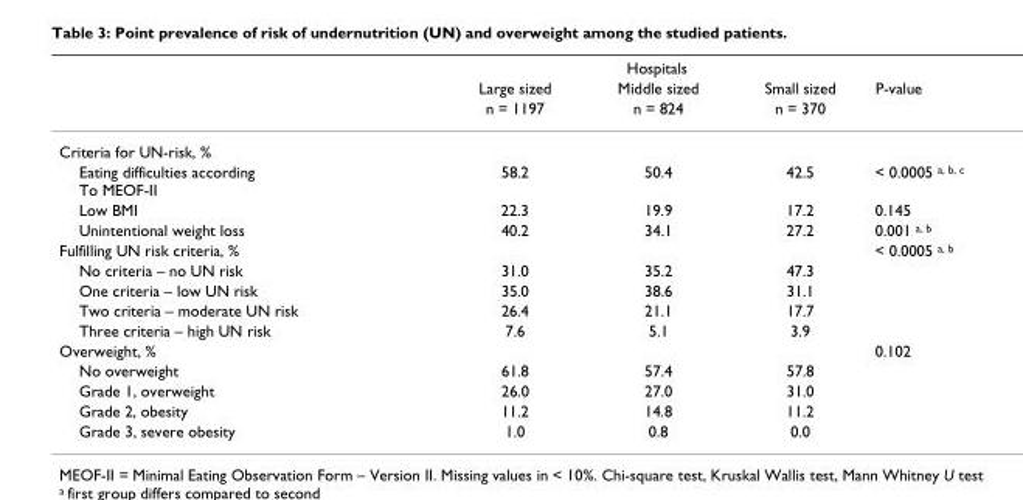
<table><thead><tr><td rowspan="3"></td><td colspan="3">Hospitals</td><td rowspan="3">P-value</td></tr><tr><td rowspan="2">Large sized n = 1197</td><td rowspan="2">Middle sized n = 824</td><td rowspan="2">Small sized n = 370</td></tr><tr></tr></thead><tbody><tr><td colspan="5">Criteria for UN-risk, %</td></tr><tr><td>Eating difficulties according To MEOF-II</td><td>58.2</td><td>50.4</td><td>42.5</td><td>&lt; 0.0005 <sup>a, b, c</sup></td></tr><tr><td>Low BMI</td><td>22.3</td><td>19.9</td><td>17.2</td><td>0.145</td></tr><tr><td>Unintentional weight loss</td><td>40.2</td><td>34.1</td><td>27.2</td><td>0.001 <sup>a, b</sup></td></tr><tr><td>Fulfilling UN risk criteria, %</td><td></td><td></td><td></td><td>&lt; 0.0005 <sup>a, b</sup></td></tr><tr><td>No criteria – no UN risk</td><td>31.0</td><td>35.2</td><td>47.3</td><td></td></tr><tr><td>One criteria – low UN risk</td><td>35.0</td><td>38.6</td><td>31.1</td><td></td></tr><tr><td>Two criteria – moderate UN risk</td><td>26.4</td><td>21.1</td><td>17.7</td><td></td></tr><tr><td>Three criteria – high UN risk</td><td>7.6</td><td>5.1</td><td>3.9</td><td></td></tr><tr><td>Overweight, %</td><td></td><td></td><td></td><td>0.102</td></tr><tr><td>No overweight</td><td>61.8</td><td>57.4</td><td>57.8</td><td></td></tr><tr><td>Grade 1, overweight</td><td>26.0</td><td>27.0</td><td>31.0</td><td></td></tr><tr><td>Grade 2, obesity</td><td>11.2</td><td>14.8</td><td>11.2</td><td></td></tr><tr><td>Grade 3, severe obesity</td><td>1.0</td><td>0.8</td><td>0.0</td><td></td></tr></tbody></table>